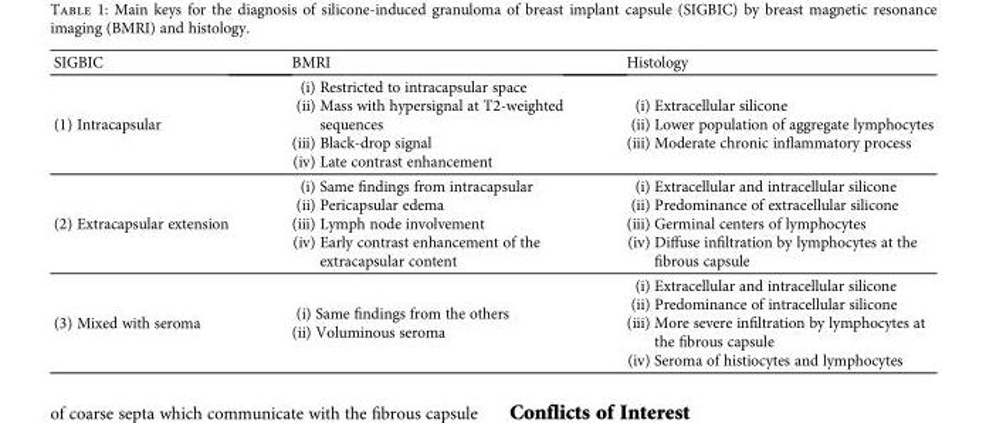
<table><thead><tr><td>SIGBIC</td><td>BMRI</td><td>Histology</td></tr></thead><tbody><tr><td>(1) Intracapsular</td><td>(i) Restricted to intracapsular space (ii) Mass with hypersignal at T2-weighted sequences (iii) Black-drop signal (iv) Late contrast enhancement</td><td>(i) Extracellular silicone (ii) Lower population of aggregate lymphocytes (iii) Moderate chronic inflammatory process</td></tr><tr><td>(2) Extracapsular extension</td><td>(i) Same findings from intracapsular (ii) Pericapsular edema (iii) Lymph node involvement (iv) Early contrast enhancement of the extracapsular content</td><td>(i) Extracellular and intracellular silicone (ii) Predominance of extracellular silicone (iii) Germinal centers of lymphocytes (iv) Diffuse infiltration by lymphocytes at the fibrous capsule</td></tr><tr><td>(3) Mixed with seroma</td><td>(i) Same findings from the others (ii) Voluminous seroma</td><td>(i) Extracellular and intracellular silicone (ii) Predominance of intracellular silicone (iii) More severe infiltration by lymphocytes at the fibrous capsule (iv) Seroma of histiocytes and lymphocytes</td></tr></tbody></table>